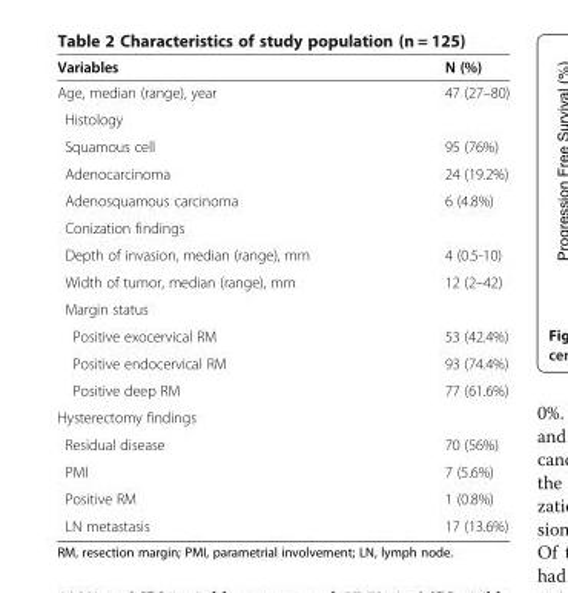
<table><thead><tr><td>Variables</td><td>N (%)</td></tr></thead><tbody><tr><td>Age, median (range), year</td><td>47 (27–80)</td></tr><tr><td colspan="2">Histology</td></tr><tr><td>Squamous cell</td><td>95 (76%)</td></tr><tr><td>Adenocarcinoma</td><td>24 (19.2%)</td></tr><tr><td>Adenosquamous carcinoma</td><td>6 (4.8%)</td></tr><tr><td colspan="2">Conization findings</td></tr><tr><td>Depth of invasion, median (range), mm</td><td>4 (0.5-10)</td></tr><tr><td>Width of tumor, median (range), mm</td><td>12 (2–42)</td></tr><tr><td colspan="2">Margin status</td></tr><tr><td>Positive exocervical RM</td><td>53 (42.4%)</td></tr><tr><td>Positive endocervical RM</td><td>93 (74.4%)</td></tr><tr><td>Positive deep RM</td><td>77 (61.6%)</td></tr><tr><td colspan="2">Hysterectomy findings</td></tr><tr><td>Residual disease</td><td>70 (56%)</td></tr><tr><td>PMI</td><td>7 (5.6%)</td></tr><tr><td>Positive RM</td><td>1 (0.8%)</td></tr><tr><td>LN metastasis</td><td>17 (13.6%)</td></tr></tbody></table>